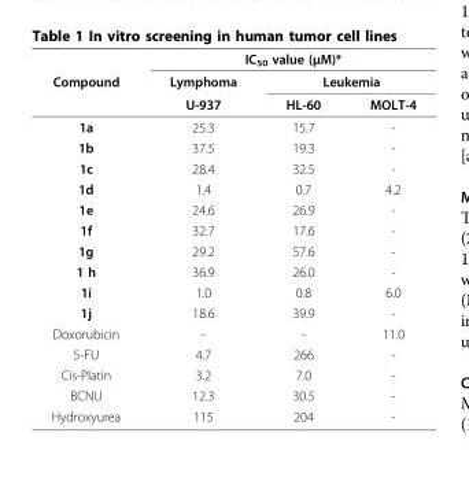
<table><thead><tr><td rowspan="3">Compound</td><td colspan="3">IC<sub>50</sub> value (μM)*</td></tr><tr><td rowspan="2">Lymphoma U-937</td><td colspan="2">Leukemia</td></tr><tr><td>HL-60</td><td>MOLT-4</td></tr></thead><tbody><tr><td>1a</td><td>25.3</td><td>15.7</td><td>-</td></tr><tr><td>1b</td><td>37.5</td><td>19.3</td><td>-</td></tr><tr><td>1c</td><td>28.4</td><td>32.5</td><td>-</td></tr><tr><td>1d</td><td>1.4</td><td>0.7</td><td>4.2</td></tr><tr><td>1e</td><td>24.6</td><td>26.9</td><td>-</td></tr><tr><td>1f</td><td>32.7</td><td>17.6</td><td>-</td></tr><tr><td>1g</td><td>29.2</td><td>57.6</td><td>-</td></tr><tr><td>1 h</td><td>36.9</td><td>26.0</td><td>-</td></tr><tr><td>1i</td><td>1.0</td><td>0.8</td><td>6.0</td></tr><tr><td>1j</td><td>18.6</td><td>39.9</td><td>-</td></tr><tr><td>Doxorubicin</td><td>-</td><td>-</td><td>11.0</td></tr><tr><td>5-FU</td><td>4.7</td><td>266</td><td>-</td></tr><tr><td>Cis-Platin</td><td>3.2</td><td>7.0</td><td>-</td></tr><tr><td>BCNU</td><td>12.3</td><td>30.5</td><td>-</td></tr><tr><td>Hydroxyurea</td><td>115</td><td>204</td><td>-</td></tr></tbody></table>